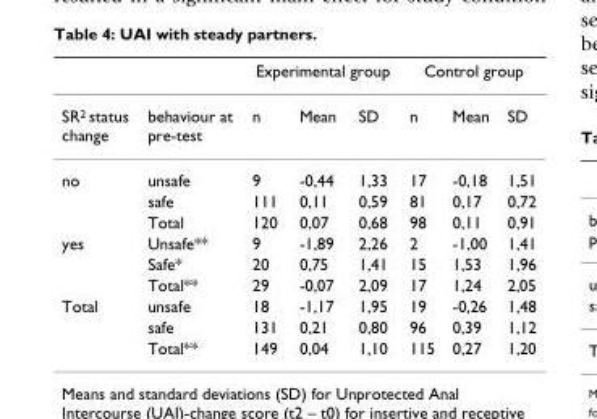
<table><thead><tr><td rowspan="2">SR2 status change</td><td rowspan="2">behaviour at pre-test</td><td colspan="3">Experimental group</td><td colspan="3">Control group</td></tr><tr><td>n</td><td>Mean</td><td>SD</td><td>n</td><td>Mean</td><td>SD</td></tr></thead><tbody><tr><td rowspan="3">no</td><td>unsafe</td><td>9</td><td>-0,44</td><td>1,33</td><td>17</td><td>-0,18</td><td>1,51</td></tr><tr><td>safe</td><td>111</td><td>0,11</td><td>0,59</td><td>81</td><td>0,17</td><td>0,72</td></tr><tr><td>Total</td><td>120</td><td>0,07</td><td>0,68</td><td>98</td><td>0,11</td><td>0,91</td></tr><tr><td rowspan="3">yes</td><td>Unsafe**</td><td>9</td><td>-1,89</td><td>2,26</td><td>2</td><td>-1,00</td><td>1,41</td></tr><tr><td>Safe*</td><td>20</td><td>0,75</td><td>1,41</td><td>15</td><td>1,53</td><td>1,96</td></tr><tr><td>Total**</td><td>29</td><td>-0,07</td><td>2,09</td><td>17</td><td>1,24</td><td>2,05</td></tr><tr><td rowspan="3">Total</td><td>unsafe</td><td>18</td><td>-1,17</td><td>1,95</td><td>19</td><td>-0,26</td><td>1,48</td></tr><tr><td>safe</td><td>131</td><td>0,21</td><td>0,80</td><td>96</td><td>0,39</td><td>1,12</td></tr><tr><td>Total**</td><td>149</td><td>0,04</td><td>1,10</td><td>115</td><td>0,27</td><td>1,20</td></tr></tbody></table>